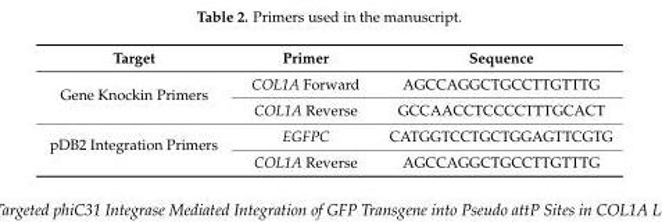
<table><thead><tr><td>Target</td><td>Primer</td><td>Sequence</td></tr></thead><tbody><tr><td rowspan="2">Gene Knockin Primers</td><td>COL1A Forward</td><td>AGCCAGGCTGCCTTGTTTG</td></tr><tr><td>COL1A Reverse</td><td>GCCAACCTCCCCTTTGCACT</td></tr><tr><td rowspan="2">pDB2 Integration Primers</td><td>EGFPC</td><td>CATGGTCCTGCTGGAGTTCGTG</td></tr><tr><td>COL1A Reverse</td><td>AGCCAGGCTGCCTTGTTTG</td></tr></tbody></table>